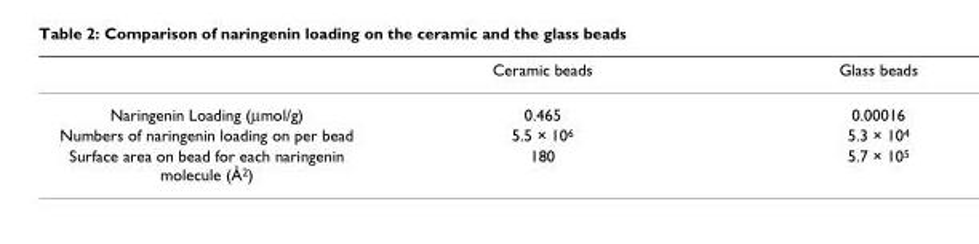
<table><thead><tr><td></td><td>Ceramic beads</td><td>Glass beads</td></tr></thead><tbody><tr><td>Naringenin Loading (µmol/g)</td><td>0.465</td><td>0.00016</td></tr><tr><td>Numbers of naringenin loading on per bead</td><td>5.5 × 10<sup>6</sup></td><td>5.3 × 10<sup>4</sup></td></tr><tr><td>Surface area on bead for each naringenin molecule (Å<sup>2</sup>)</td><td>180</td><td>5.7 × 10<sup>5</sup></td></tr></tbody></table>